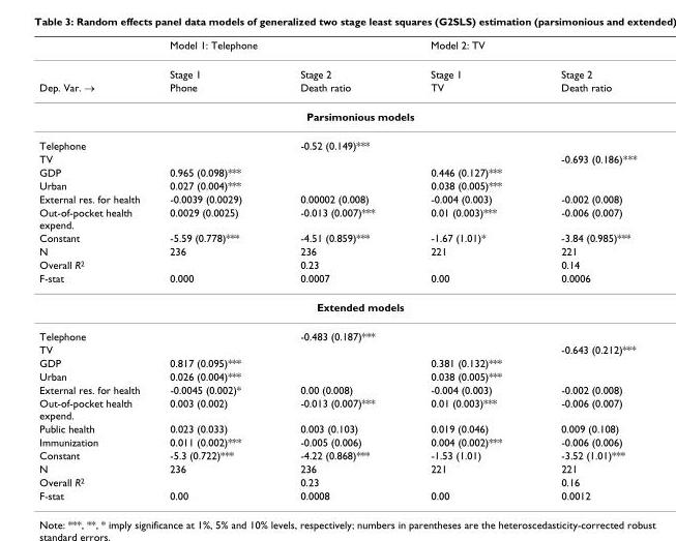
<table><thead><tr><td rowspan="2"></td><td colspan="2">Model 1: Telephone</td><td colspan="2">Model 2: TV</td></tr><tr><td>Stage 1</td><td>Stage 2</td><td>Stage 1</td><td>Stage 2</td></tr></thead><tbody><tr><td>Dep. Var. →</td><td>Phone</td><td>Death ratio</td><td>TV</td><td>Death ratio</td></tr><tr><td colspan="5">Parsimonious models</td></tr><tr><td>Telephone</td><td></td><td>-0.52 (0.149)***</td><td></td><td></td></tr><tr><td>TV</td><td></td><td></td><td></td><td>-0.693 (0.186)***</td></tr><tr><td>GDP</td><td>0.965 (0.098)***</td><td></td><td>0.446 (0.127)***</td><td></td></tr><tr><td>Urban</td><td>0.027 (0.004)***</td><td></td><td>0.038 (0.005)***</td><td></td></tr><tr><td>External res. for health</td><td>-0.0039 (0.0029)</td><td>0.00002 (0.008)</td><td>-0.004 (0.003)</td><td>-0.002 (0.008)</td></tr><tr><td>Out-of-pocket health expend.</td><td>0.0029 (0.0025)</td><td>-0.013 (0.007)***</td><td>0.01 (0.003)***</td><td>-0.006 (0.007)</td></tr><tr><td>Constant</td><td>-5.59 (0.778)***</td><td>-4.51 (0.859)***</td><td>-1.67 (1.01)*</td><td>-3.84 (0.985)***</td></tr><tr><td>N</td><td>236</td><td>236</td><td>221</td><td>221</td></tr><tr><td>Overall R<sup>2</sup></td><td></td><td>0.23</td><td></td><td>0.14</td></tr><tr><td>F-stat</td><td>0.000</td><td>0.0007</td><td>0.00</td><td>0.0006</td></tr><tr><td colspan="5">Extended models</td></tr><tr><td>Telephone</td><td></td><td>-0.483 (0.187)***</td><td></td><td></td></tr><tr><td>TV</td><td></td><td></td><td></td><td>-0.643 (0.212)***</td></tr><tr><td>GDP</td><td>0.817 (0.095)***</td><td></td><td>0.381 (0.132)***</td><td></td></tr><tr><td>Urban</td><td>0.026 (0.004)***</td><td></td><td>0.038 (0.005)***</td><td></td></tr><tr><td>External res. for health</td><td>-0.0045 (0.002)*</td><td>0.00 (0.008)</td><td>-0.004 (0.003)</td><td>-0.002 (0.008)</td></tr><tr><td>Out-of-pocket health expend.</td><td>0.003 (0.002)</td><td>-0.013 (0.007)***</td><td>0.01 (0.003)***</td><td>-0.006 (0.007)</td></tr><tr><td>Public health</td><td>0.023 (0.033)</td><td>0.003 (0.103)</td><td>0.019 (0.046)</td><td>0.009 (0.108)</td></tr><tr><td>Immunization</td><td>0.011 (0.002)***</td><td>-0.005 (0.006)</td><td>0.004 (0.002)***</td><td>-0.006 (0.006)</td></tr><tr><td>Constant</td><td>-5.3 (0.722)***</td><td>-4.22 (0.868)***</td><td>-1.53 (1.01)</td><td>-3.52 (1.01)***</td></tr><tr><td>N</td><td>236</td><td>236</td><td>221</td><td>221</td></tr><tr><td>Overall R<sup>2</sup></td><td></td><td>0.23</td><td></td><td>0.16</td></tr><tr><td>F-stat</td><td>0.00</td><td>0.0008</td><td>0.00</td><td>0.0012</td></tr></tbody></table>